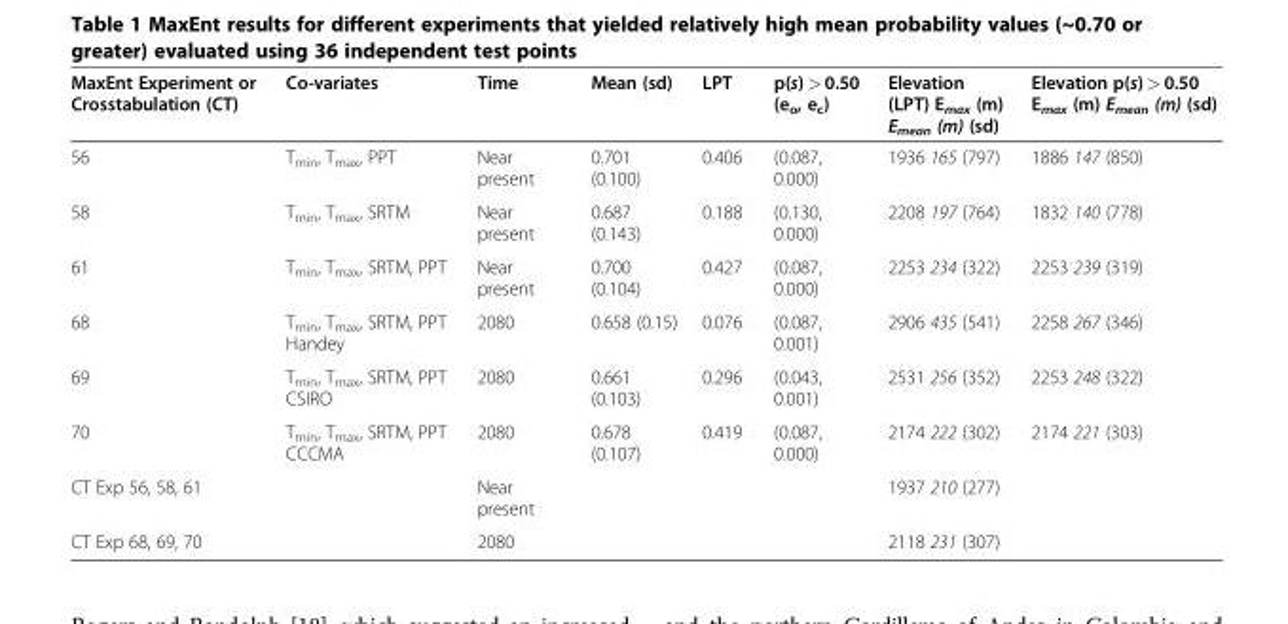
<table><thead><tr><td>MaxEnt Experiment or Crosstabulation (CT)</td><td>Co-variates</td><td>Time</td><td>Mean (sd)</td><td>LPT</td><td>p(s) &gt; 0.50 (e<sub>o</sub>, e<sub>c</sub>)</td><td>Elevation (LPT) E<sub>max</sub> (m) E<sub>mean</sub> (m) (sd)</td><td>Elevation p(s) &gt; 0.50 E<sub>max</sub> (m) E<sub>mean</sub> (m) (sd)</td></tr></thead><tbody><tr><td>56</td><td>T<sub>min</sub>, T<sub>max</sub>, PPT</td><td>Near present</td><td>0.701 (0.100)</td><td>0.406</td><td>(0.087, 0.000)</td><td>1936 165 (797)</td><td>1886 147 (850)</td></tr><tr><td>58</td><td>T<sub>min</sub>, T<sub>max</sub>, SRTM</td><td>Near present</td><td>0.687 (0.143)</td><td>0.188</td><td>(0.130, 0.000)</td><td>2208 197 (764)</td><td>1832 140 (778)</td></tr><tr><td>61</td><td>T<sub>min</sub>, T<sub>max</sub>, SRTM, PPT</td><td>Near present</td><td>0.700 (0.104)</td><td>0.427</td><td>(0.087, 0.000)</td><td>2253 234 (322)</td><td>2253 239 (319)</td></tr><tr><td>68</td><td>T<sub>min</sub>, T<sub>max</sub>, SRTM, PPT Handey</td><td>2080</td><td>0.658 (0.15)</td><td>0.076</td><td>(0.087, 0.001)</td><td>2906 435 (541)</td><td>2258 267 (346)</td></tr><tr><td>69</td><td>T<sub>min</sub>, T<sub>max</sub>, SRTM, PPT CSIRO</td><td>2080</td><td>0.661 (0.103)</td><td>0.296</td><td>(0.043, 0.001)</td><td>2531 256 (352)</td><td>2253 248 (322)</td></tr><tr><td>70</td><td>T<sub>min</sub>, T<sub>max</sub>, SRTM, PPT CCCMA</td><td>2080</td><td>0.678 (0.107)</td><td>0.419</td><td>(0.087, 0.000)</td><td>2174 222 (302)</td><td>2174 221 (303)</td></tr><tr><td>CT Exp 56, 58, 61</td><td></td><td>Near present</td><td></td><td></td><td></td><td>1937 210 (277)</td><td></td></tr><tr><td>CT Exp 68, 69, 70</td><td></td><td>2080</td><td></td><td></td><td></td><td>2118 231 (307)</td><td></td></tr></tbody></table>